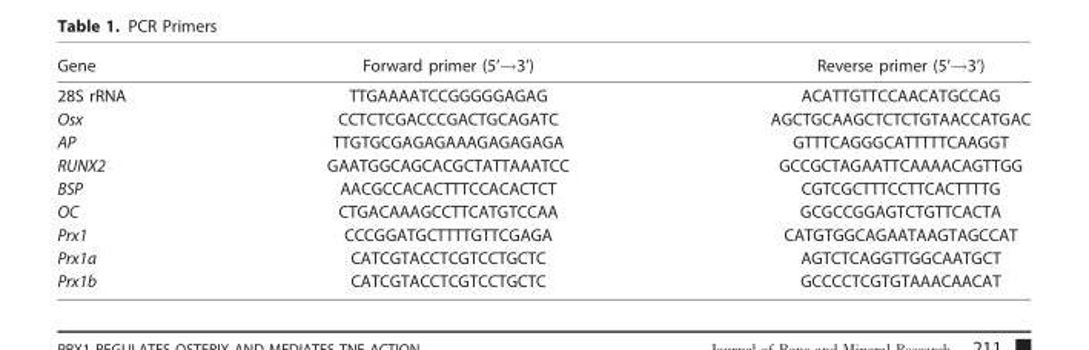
<table><thead><tr><td>Gene</td><td>Forward primer (5’→3’)</td><td>Reverse primer (5’→3’)</td></tr></thead><tbody><tr><td>28S rRNA</td><td>TTGAAAATCCGGGGGAGAG</td><td>ACATTGTTCCAACATGCCAG</td></tr><tr><td>Osx</td><td>CCTCTCGACCCGACTGCAGATC</td><td>AGCTGCAAGCTCTCTGTAACCATGAC</td></tr><tr><td>AP</td><td>TTGTGCGAGAGAAAGAGAGAGA</td><td>GTTTCAGGGCATTTTTCAAGGT</td></tr><tr><td>RUNX2</td><td>GAATGGCAGCACGCTATTAAATCC</td><td>GCCGCTAGAATTCAAAACAGTTGG</td></tr><tr><td>BSP</td><td>AACGCCACACTTTCCACACTCT</td><td>CGTCGCTTTCCTTCACTTTTG</td></tr><tr><td>OC</td><td>CTGACAAAGCCTTCATGTCCAA</td><td>GCGCCGGAGTCTGTTCACTA</td></tr><tr><td>Prx1</td><td>CCCGGATGCTTTTGTTCGAGA</td><td>CATGTGGCAGAATAAGTAGCCAT</td></tr><tr><td>Prx1a</td><td>CATCGTACCTCGTCCTGCTC</td><td>AGTCTCAGGTTGGCAATGCT</td></tr><tr><td>Prx1b</td><td>CATCGTACCTCGTCCTGCTC</td><td>GCCCCTCGTGTAAACAACAT</td></tr></tbody></table>